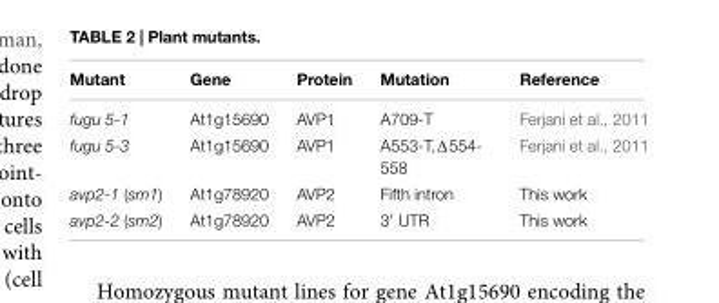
<table><thead><tr><td>Mutant</td><td>Gene</td><td>Protein</td><td>Mutation</td><td>Reference</td></tr></thead><tbody><tr><td>fugu 5-1</td><td>At1g15690</td><td>AVP1</td><td>A709-T</td><td>Ferjani et al., 2011</td></tr><tr><td>fugu 5-3</td><td>At1g15690</td><td>AVP1</td><td>A553-T,Δ554- 558</td><td>Ferjani et al., 2011</td></tr><tr><td>avp2-1 (sm1)</td><td>At1g78920</td><td>AVP2</td><td>Fifth intron</td><td>This work</td></tr><tr><td>avp2-2 (sm2)</td><td>At1g78920</td><td>AVP2</td><td>3′ UTR</td><td>This work</td></tr></tbody></table>